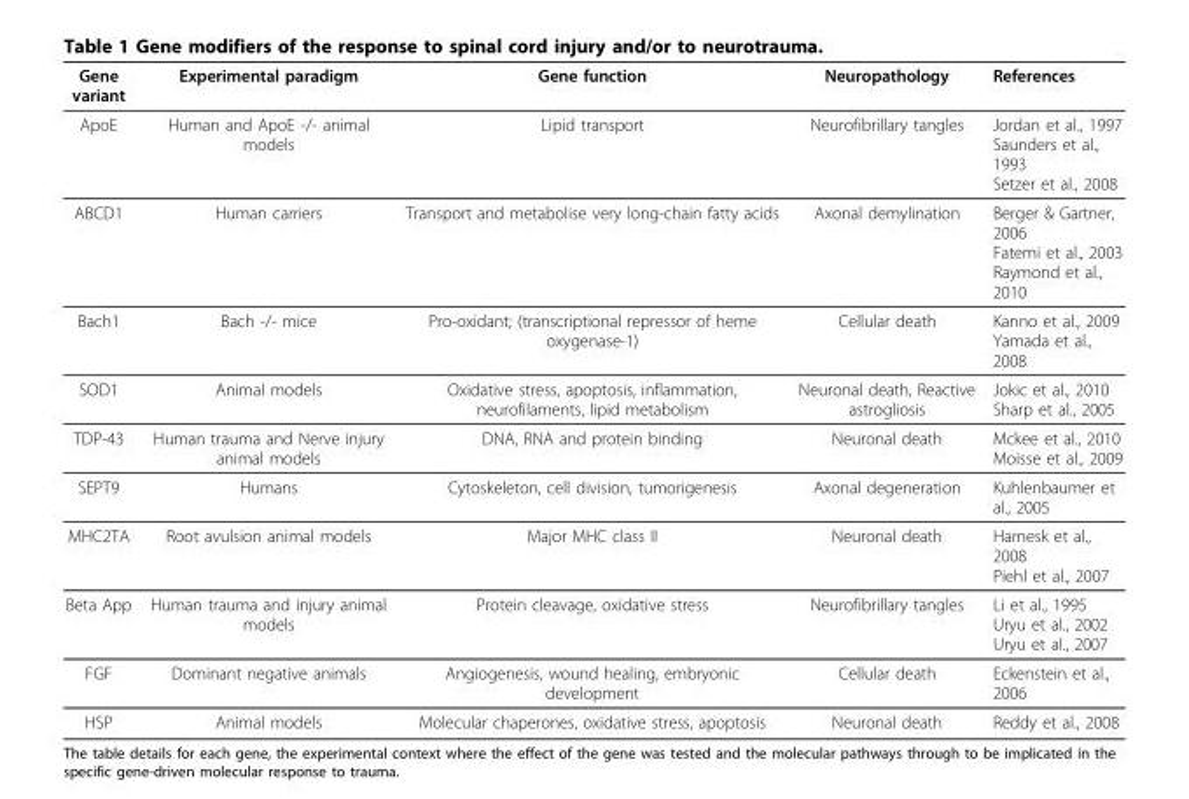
<table><thead><tr><td>Gene variant</td><td>Experimental paradigm</td><td>Gene function</td><td>Neuropathology</td><td>References</td></tr></thead><tbody><tr><td>ApoE</td><td>Human and ApoE -/- animal models</td><td>Lipid transport</td><td>Neurofibrillary tangles</td><td>Jordan et al., 1997 Saunders et al., 1993 Setzer et al., 2008</td></tr><tr><td>ABCD1</td><td>Human carriers</td><td>Transport and metabolise very long-chain fatty acids</td><td>Axonal demylination</td><td>Berger &amp; Gartner, 2006 Fatemi et al., 2003 Raymond et al., 2010</td></tr><tr><td>Bach1</td><td>Bach -/- mice</td><td>Pro-oxidant; (transcriptional repressor of heme oxygenase-1)</td><td>Cellular death</td><td>Kanno et al., 2009 Yamada et al., 2008</td></tr><tr><td>SOD1</td><td>Animal models</td><td>Oxidative stress, apoptosis, inflammation, neurofilaments, lipid metabolism</td><td>Neuronal death, Reactive astrogliosis</td><td>Jokic et al., 2010 Sharp et al., 2005</td></tr><tr><td>TDP-43</td><td>Human trauma and Nerve injury animal models</td><td>DNA, RNA and protein binding</td><td>Neuronal death</td><td>Mckee et al., 2010 Moisse et al., 2009</td></tr><tr><td>SEPT9</td><td>Humans</td><td>Cytoskeleton, cell division, tumorigenesis</td><td>Axonal degeneration</td><td>Kuhlenbaumer et al., 2005</td></tr><tr><td>MHC2TA</td><td>Root avulsion animal models</td><td>Major MHC class II</td><td>Neuronal death</td><td>Harnesk et al., 2008 Piehl et al., 2007</td></tr><tr><td>Beta App</td><td>Human trauma and injury animal models</td><td>Protein cleavage, oxidative stress</td><td>Neurofibrillary tangles</td><td>Li et al., 1995 Uryu et al., 2002 Uryu et al., 2007</td></tr><tr><td>FGF</td><td>Dominant negative animals</td><td>Angiogenesis, wound healing, embryonic development</td><td>Cellular death</td><td>Eckenstein et al., 2006</td></tr><tr><td>HSP</td><td>Animal models</td><td>Molecular chaperones, oxidative stress, apoptosis</td><td>Neuronal death</td><td>Reddy et al., 2008</td></tr></tbody></table>